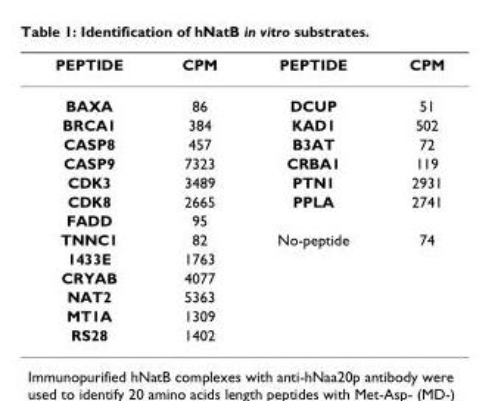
<table><thead><tr><td>PEPTIDE</td><td>CPM</td><td>PEPTIDE</td><td>CPM</td></tr></thead><tbody><tr><td>BAXA</td><td>86</td><td>DCUP</td><td>51</td></tr><tr><td>BRCA1</td><td>384</td><td>KAD1</td><td>502</td></tr><tr><td>CASP8</td><td>457</td><td>B3AT</td><td>72</td></tr><tr><td>CASP9</td><td>7323</td><td>CRBA1</td><td>119</td></tr><tr><td>CDK3</td><td>3489</td><td>PTN1</td><td>2931</td></tr><tr><td>CDK8</td><td>2665</td><td>PPLA</td><td>2741</td></tr><tr><td>FADD</td><td>95</td><td></td><td></td></tr><tr><td>TNNC1</td><td>82</td><td>No-peptide</td><td>74</td></tr><tr><td>1433E</td><td>1763</td><td></td><td></td></tr><tr><td>CRYAB</td><td>4077</td><td></td><td></td></tr><tr><td>NAT2</td><td>5363</td><td></td><td></td></tr><tr><td>MT1A</td><td>1309</td><td></td><td></td></tr><tr><td>RS28</td><td>1402</td><td></td><td></td></tr></tbody></table>